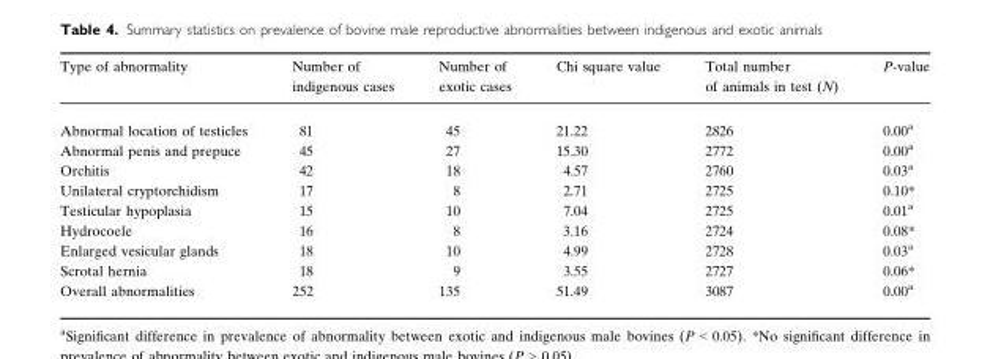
<table><thead><tr><td>Type of abnormality</td><td>Number of indigenous cases</td><td>Number of exotic cases</td><td>Chi square value</td><td>Total number of animals in test (N)</td><td>P-value</td></tr></thead><tbody><tr><td>Abnormal location of testicles</td><td>81</td><td>45</td><td>21.22</td><td>2826</td><td>0.00<sup>a</sup></td></tr><tr><td>Abnormal penis and prepuce</td><td>45</td><td>27</td><td>15.30</td><td>2772</td><td>0.00<sup>a</sup></td></tr><tr><td>Orchitis</td><td>42</td><td>18</td><td>4.57</td><td>2760</td><td>0.03<sup>a</sup></td></tr><tr><td>Unilateral cryptorchidism</td><td>17</td><td>8</td><td>2.71</td><td>2725</td><td>0.10*</td></tr><tr><td>Testicular hypoplasia</td><td>15</td><td>10</td><td>7.04</td><td>2725</td><td>0.01<sup>a</sup></td></tr><tr><td>Hydrocoele</td><td>16</td><td>8</td><td>3.16</td><td>2724</td><td>0.08*</td></tr><tr><td>Enlarged vesicular glands</td><td>18</td><td>10</td><td>4.99</td><td>2728</td><td>0.03<sup>a</sup></td></tr><tr><td>Scrotal hernia</td><td>18</td><td>9</td><td>3.55</td><td>2727</td><td>0.06*</td></tr><tr><td>Overall abnormalities</td><td>252</td><td>135</td><td>51.49</td><td>3087</td><td>0.00<sup>a</sup></td></tr></tbody></table>